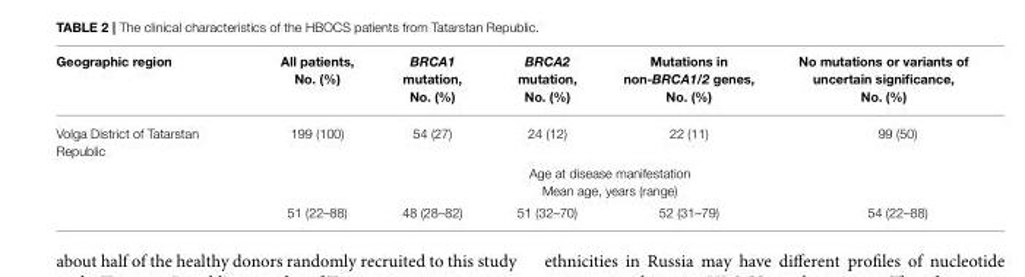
<table><thead><tr><td>Geographic region</td><td>All patients, No. (%)</td><td>BRCA1 mutation, No. (%)</td><td>BRCA2 mutation, No. (%)</td><td>Mutations in non-BRCA1/2 genes, No. (%)</td><td>No mutations or variants of uncertain significance, No. (%)</td></tr></thead><tbody><tr><td rowspan="3">Volga District of Tatarstan Republic</td><td>199 (100)</td><td>54 (27)</td><td>24 (12)</td><td>22 (11)</td><td>99 (50)</td></tr><tr><td colspan="5">Age at disease manifestation Mean age, years (range)</td></tr><tr><td>51 (22–88)</td><td>48 (28–82)</td><td>51 (32–70)</td><td>52 (31–79)</td><td>54 (22–88)</td></tr></tbody></table>